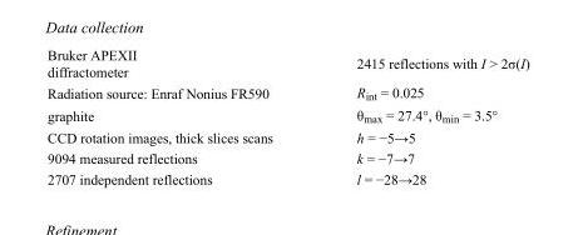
<table><tbody><tr><td>Bruker APEXII diffractometer</td><td>2415 reflections with I &gt; 2σ(I)</td></tr><tr><td>Radiation source: Enraf Nonius FR590</td><td>R<sub>int</sub> = 0.025</td></tr><tr><td>graphite</td><td>θ<sub>max</sub> = 27.4°, θ<sub>min</sub> = 3.5°</td></tr><tr><td>CCD rotation images, thick slices scans</td><td>h = −5→5</td></tr><tr><td>9094 measured reflections</td><td>k = −7→7</td></tr><tr><td>2707 independent reflections</td><td>l = −28→28</td></tr></tbody></table>